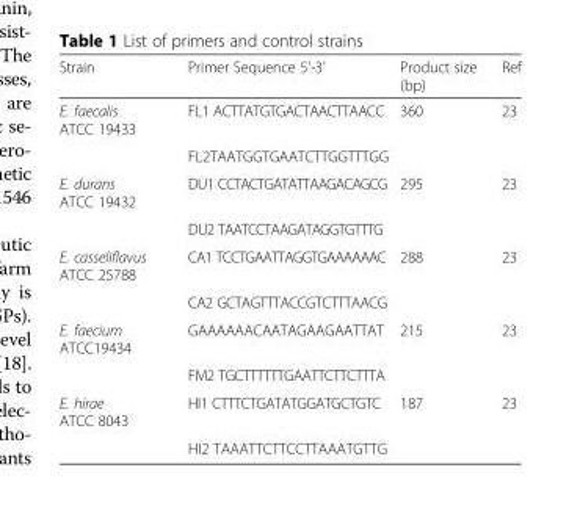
<table><thead><tr><td>Strain</td><td>Primer Sequence 5&#x27;-3&#x27;</td><td>Product size (bp)</td><td>Ref</td></tr></thead><tbody><tr><td rowspan="2">E. faecalis ATCC 19433</td><td>FL1 ACTTATGTGACTAACTTAACC</td><td>360</td><td>23</td></tr><tr><td>FL2TAATGGTGAATCTTGGTTTGG</td><td></td><td></td></tr><tr><td rowspan="2">E. durans ATCC 19432</td><td>DU1 CCTACTGATATTAAGACAGCG</td><td>295</td><td>23</td></tr><tr><td>DU2 TAATCCTAAGATAGGTGTTTG</td><td></td><td></td></tr><tr><td rowspan="2">E. casseliflavus ATCC 25788</td><td>CA1 TCCTGAATTAGGTGAAAAAAC</td><td>288</td><td>23</td></tr><tr><td>CA2 GCTAGTTTACCGTCTTTAACG</td><td></td><td></td></tr><tr><td rowspan="2">E. faecium ATCC19434</td><td>GAAAAAACAATAGAAGAATTAT</td><td>215</td><td>23</td></tr><tr><td>FM2 TGCTTTTTTGAATTCTTCTTTA</td><td></td><td></td></tr><tr><td rowspan="2">E. hirae ATCC 8043</td><td>HI1 CTTTCTGATATGGATGCTGTC</td><td>187</td><td>23</td></tr><tr><td>HI2 TAAATTCTTCCTTAAATGTTG</td><td></td><td></td></tr></tbody></table>